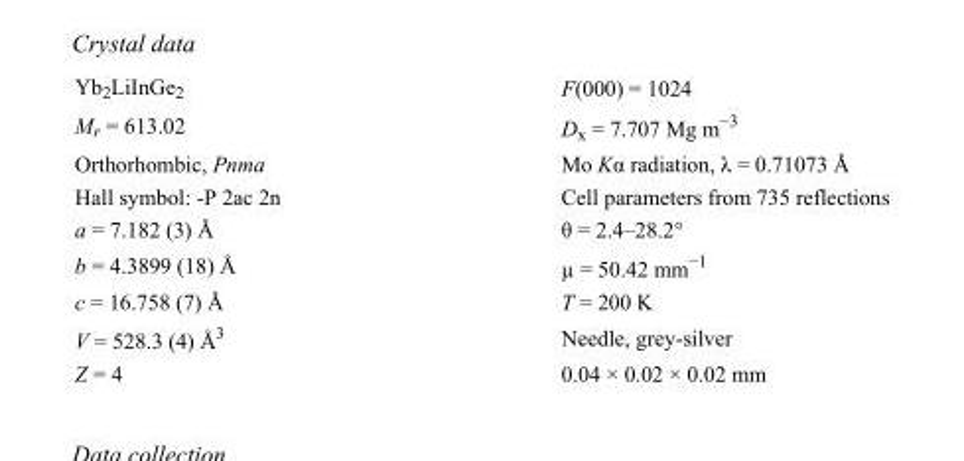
<table><tbody><tr><td>Yb<sub>2</sub>LiInGe<sub>2</sub></td><td>F(000) = 1024</td></tr><tr><td>M<sub>r</sub> = 613.02</td><td>D<sub>x</sub> = 7.707 Mg m<sup>−3</sup></td></tr><tr><td>Orthorhombic, Pnma</td><td>Mo Kα radiation, λ = 0.71073 Å</td></tr><tr><td>Hall symbol: -P 2ac 2n</td><td>Cell parameters from 735 reflections</td></tr><tr><td>a = 7.182 (3) Å</td><td>θ = 2.4–28.2°</td></tr><tr><td>b = 4.3899 (18) Å</td><td>µ = 50.42 mm<sup>−1</sup></td></tr><tr><td>c = 16.758 (7) Å</td><td>T = 200 K</td></tr><tr><td>V = 528.3 (4) Å<sup>3</sup></td><td>Needle, grey-silver</td></tr><tr><td>Z = 4</td><td>0.04 × 0.02 × 0.02 mm</td></tr></tbody></table>